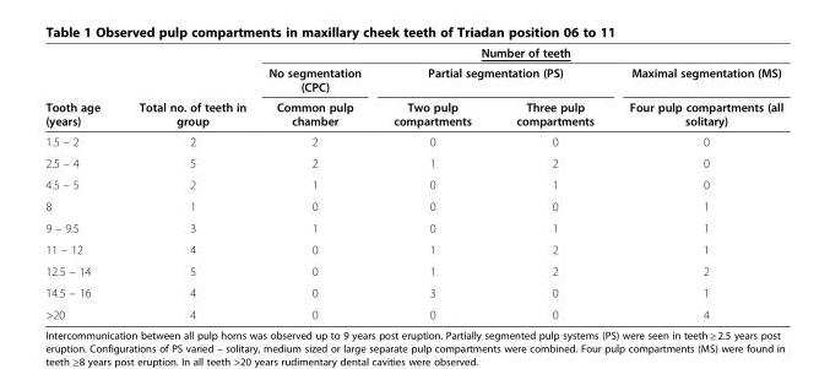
<table><thead><tr><td rowspan="3">Tooth age (years)</td><td rowspan="3">Total no. of teeth in group</td><td colspan="4">Number of teeth</td></tr><tr><td rowspan="2">No segmentation (CPC) Common pulp chamber</td><td colspan="2">Partial segmentation (PS)</td><td rowspan="2">Maximal segmentation (MS) Four pulp compartments (all solitary)</td></tr><tr><td>Two pulp compartments</td><td>Three pulp compartments</td></tr></thead><tbody><tr><td>1.5 – 2</td><td>2</td><td>2</td><td>0</td><td>0</td><td>0</td></tr><tr><td>2.5 – 4</td><td>5</td><td>2</td><td>1</td><td>2</td><td>0</td></tr><tr><td>4.5 – 5</td><td>2</td><td>1</td><td>0</td><td>1</td><td>0</td></tr><tr><td>8</td><td>1</td><td>0</td><td>0</td><td>0</td><td>1</td></tr><tr><td>9 – 9.5</td><td>3</td><td>1</td><td>0</td><td>1</td><td>1</td></tr><tr><td>11 – 12</td><td>4</td><td>0</td><td>1</td><td>2</td><td>1</td></tr><tr><td>12.5 – 14</td><td>5</td><td>0</td><td>1</td><td>2</td><td>2</td></tr><tr><td>14.5 – 16</td><td>4</td><td>0</td><td>3</td><td>0</td><td>1</td></tr><tr><td>&gt;20</td><td>4</td><td>0</td><td>0</td><td>0</td><td>4</td></tr></tbody></table>